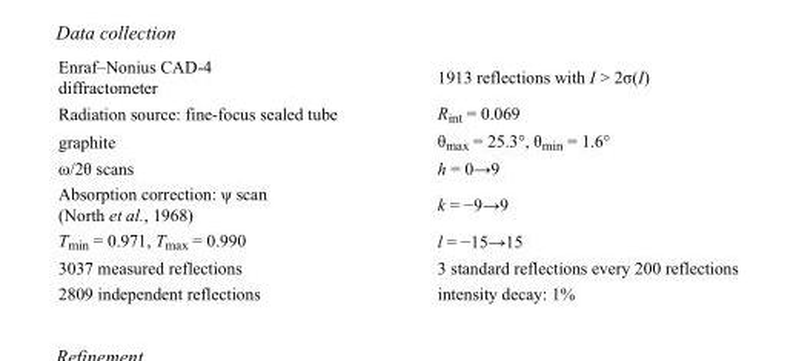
<table><tbody><tr><td>Enraf–Nonius CAD-4 diffractometer</td><td>1913 reflections with I &gt; 2σ(I)</td></tr><tr><td>Radiation source: fine-focus sealed tube</td><td>R<sub>int</sub> = 0.069</td></tr><tr><td>graphite</td><td>θ<sub>max</sub> = 25.3°, θ<sub>min</sub> = 1.6°</td></tr><tr><td>ω/2θ scans</td><td>h = 0→9</td></tr><tr><td>Absorption correction: ψ scan (North et al., 1968)</td><td>k = −9→9</td></tr><tr><td>T<sub>min</sub> = 0.971, T<sub>max</sub> = 0.990</td><td>l = −15→15</td></tr><tr><td>3037 measured reflections</td><td>3 standard reflections every 200 reflections</td></tr><tr><td>2809 independent reflections</td><td>intensity decay: 1%</td></tr></tbody></table>